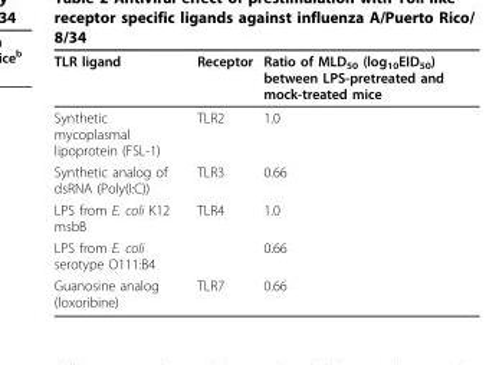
<table><thead><tr><td>TLR ligand</td><td>Receptor</td><td>Ratio of MLD<sub>50</sub> (log<sub>10</sub>EID<sub>50</sub>) between LPS-pretreated and mock-treated mice</td></tr></thead><tbody><tr><td>Synthetic mycoplasmal lipoprotein (FSL-1)</td><td>TLR2</td><td>1.0</td></tr><tr><td>Synthetic analog of dsRNA (Poly(I:C))</td><td>TLR3</td><td>0.66</td></tr><tr><td>LPS from E. coli K12 msbB</td><td>TLR4</td><td>1.0</td></tr><tr><td>LPS from E. coli serotype O111:B4</td><td></td><td>0.66</td></tr><tr><td>Guanosine analog (loxoribine)</td><td>TLR7</td><td>0.66</td></tr></tbody></table>